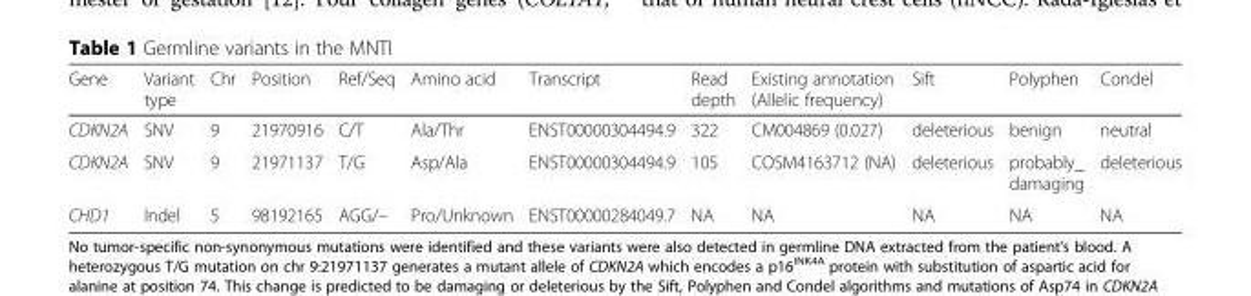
<table><thead><tr><td>Gene</td><td>Variant type</td><td>Chr</td><td>Position</td><td>Ref/Seq</td><td>Amino acid</td><td>Transcript</td><td>Read depth</td><td>Existing annotation (Allelic frequency)</td><td>Sift</td><td>Polyphen</td><td>Condel</td></tr></thead><tbody><tr><td>CDKN2A</td><td>SNV</td><td>9</td><td>21970916</td><td>C/T</td><td>Ala/Thr</td><td>ENST00000304494.9</td><td>322</td><td>CM004869 (0.027)</td><td>deleterious</td><td>benign</td><td>neutral</td></tr><tr><td>CDKN2A</td><td>SNV</td><td>9</td><td>21971137</td><td>T/G</td><td>Asp/Ala</td><td>ENST00000304494.9</td><td>105</td><td>COSM4163712 (NA)</td><td>deleterious</td><td>probably_ damaging</td><td>deleterious</td></tr><tr><td>CHD1</td><td>Indel</td><td>5</td><td>98192165</td><td>AGG/–</td><td>Pro/Unknown</td><td>ENST00000284049.7</td><td>NA</td><td>NA</td><td>NA</td><td>NA</td><td>NA</td></tr></tbody></table>